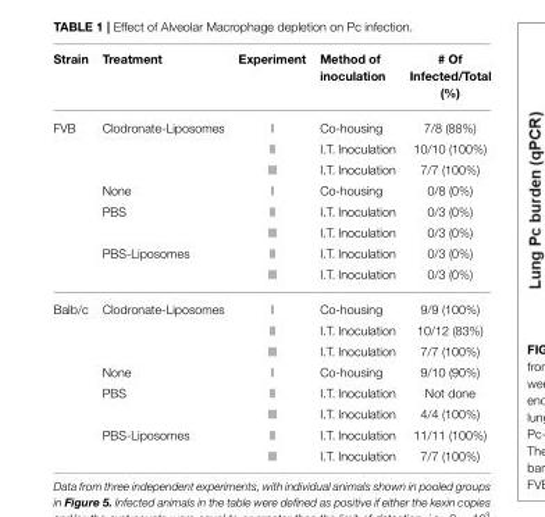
<table><thead><tr><td>Strain</td><td>Treatment</td><td>Experiment</td><td>Method of inoculation</td><td># Of Infected/Total (%)</td></tr></thead><tbody><tr><td rowspan="8">FVB</td><td>Clodronate-Liposomes</td><td>I</td><td>Co-housing</td><td>7/8 (88%)</td></tr><tr><td></td><td>II</td><td>I.T. Inoculation</td><td>10/10 (100%)</td></tr><tr><td></td><td>III</td><td>I.T. Inoculation</td><td>7/7 (100%)</td></tr><tr><td>None</td><td>I</td><td>Co-housing</td><td>0/8 (0%)</td></tr><tr><td>PBS</td><td>II</td><td>I.T. Inoculation</td><td>0/3 (0%)</td></tr><tr><td></td><td>III</td><td>I.T. Inoculation</td><td>0/3 (0%)</td></tr><tr><td>PBS-Liposomes</td><td>II</td><td>I.T. Inoculation</td><td>0/3 (0%)</td></tr><tr><td></td><td>III</td><td>I.T. Inoculation</td><td>0/3 (0%)</td></tr><tr><td rowspan="8">Balb/c</td><td>Clodronate-Liposomes</td><td>I</td><td>Co-housing</td><td>9/9 (100%)</td></tr><tr><td></td><td>II</td><td>I.T. Inoculation</td><td>10/12 (83%)</td></tr><tr><td></td><td>III</td><td>I.T. Inoculation</td><td>7/7 (100%)</td></tr><tr><td>None</td><td>I</td><td>Co-housing</td><td>9/10 (90%)</td></tr><tr><td>PBS</td><td>II</td><td>I.T. Inoculation</td><td>Not done</td></tr><tr><td></td><td>III</td><td>I.T. Inoculation</td><td>4/4 (100%)</td></tr><tr><td>PBS-Liposomes</td><td>II</td><td>I.T. Inoculation</td><td>11/11 (100%)</td></tr><tr><td></td><td>III</td><td>I.T. Inoculation</td><td>7/7 (100%)</td></tr></tbody></table>